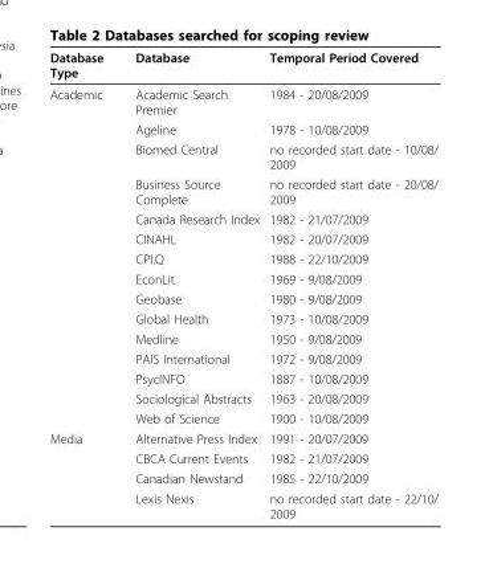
<table><thead><tr><td>Database Type</td><td>Database</td><td>Temporal Period Covered</td></tr></thead><tbody><tr><td rowspan="15">Academic</td><td>Academic Search Premier</td><td>1984 - 20/08/2009</td></tr><tr><td>Ageline</td><td>1978 - 10/08/2009</td></tr><tr><td>Biomed Central</td><td>no recorded start date - 10/08/ 2009</td></tr><tr><td>Business Source Complete</td><td>no recorded start date - 20/08/ 2009</td></tr><tr><td>Canada Research Index</td><td>1982 - 21/07/2009</td></tr><tr><td>CINAHL</td><td>1982 - 20/07/2009</td></tr><tr><td>CPI.Q</td><td>1988 - 22/10/2009</td></tr><tr><td>EconLit</td><td>1969 - 9/08/2009</td></tr><tr><td>Geobase</td><td>1980 - 9/08/2009</td></tr><tr><td>Global Health</td><td>1973 - 10/08/2009</td></tr><tr><td>Medline</td><td>1950 - 9/08/2009</td></tr><tr><td>PAIS International</td><td>1972 - 9/08/2009</td></tr><tr><td>PsycINFO</td><td>1887 - 10/08/2009</td></tr><tr><td>Sociological Abstracts</td><td>1963 - 20/08/2009</td></tr><tr><td>Web of Science</td><td>1900 - 10/08/2009</td></tr><tr><td rowspan="4">Media</td><td>Alternative Press Index</td><td>1991 - 20/07/2009</td></tr><tr><td>CBCA Current Events</td><td>1982 - 21/07/2009</td></tr><tr><td>Canadian Newstand</td><td>1985 - 22/10/2009</td></tr><tr><td>Lexis Nexis</td><td>no recorded start date - 22/10/ 2009</td></tr></tbody></table>